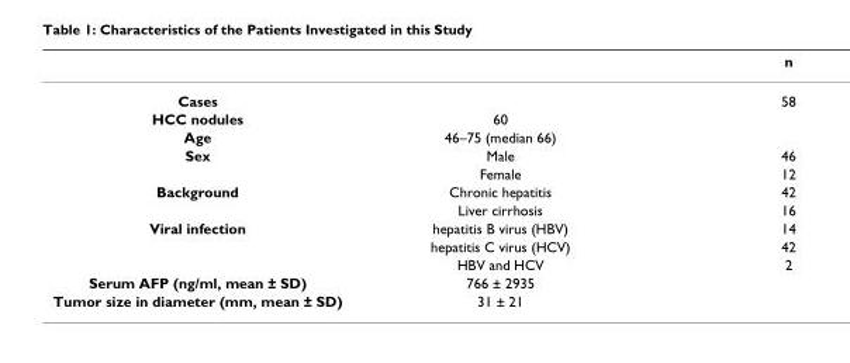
<table><thead><tr><td></td><td></td><td>n</td></tr></thead><tbody><tr><td>Cases</td><td></td><td>58</td></tr><tr><td>HCC nodules</td><td>60</td><td></td></tr><tr><td>Age</td><td>46–75 (median 66)</td><td></td></tr><tr><td rowspan="2">Sex</td><td>Male</td><td>46</td></tr><tr><td>Female</td><td>12</td></tr><tr><td rowspan="2">Background</td><td>Chronic hepatitis</td><td>42</td></tr><tr><td>Liver cirrhosis</td><td>16</td></tr><tr><td rowspan="3">Viral infection</td><td>hepatitis B virus (HBV)</td><td>14</td></tr><tr><td>hepatitis C virus (HCV)</td><td>42</td></tr><tr><td>HBV and HCV</td><td>2</td></tr><tr><td>Serum AFP (ng/ml, mean ± SD)</td><td>766 ± 2935</td><td></td></tr><tr><td>Tumor size in diameter (mm, mean ± SD)</td><td>31 ± 21</td><td></td></tr></tbody></table>